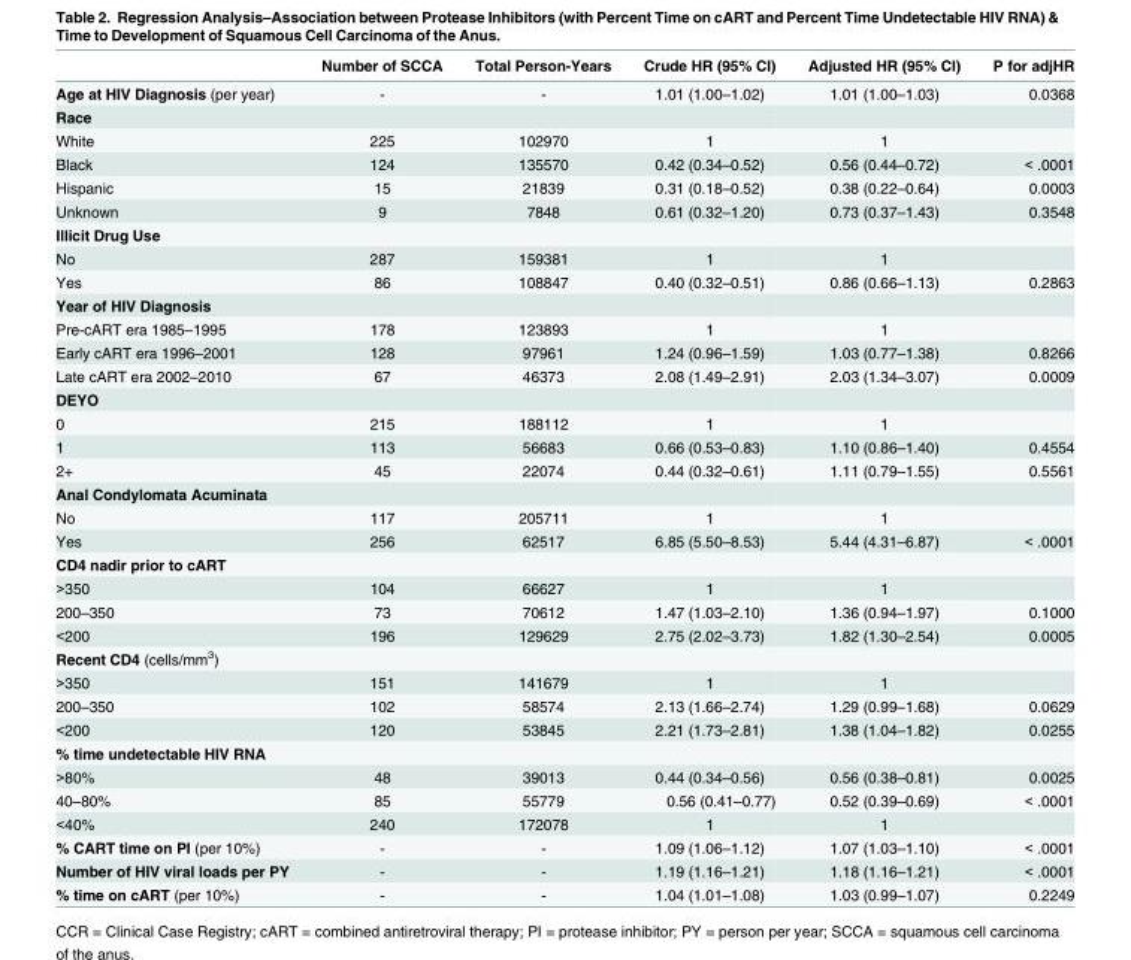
<table><thead><tr><td></td><td>Number of SCCA</td><td>Total Person-Years</td><td>Crude HR (95% CI)</td><td>Adjusted HR (95% CI)</td><td>P for adjHR</td></tr></thead><tbody><tr><td>Age at HIV Diagnosis (per year)</td><td>-</td><td>-</td><td>1.01 (1.00–1.02)</td><td>1.01 (1.00–1.03)</td><td>0.0368</td></tr><tr><td colspan="6">Race</td></tr><tr><td>White</td><td>225</td><td>102970</td><td>1</td><td>1</td><td></td></tr><tr><td>Black</td><td>124</td><td>135570</td><td>0.42 (0.34–0.52)</td><td>0.56 (0.44–0.72)</td><td>&lt; .0001</td></tr><tr><td>Hispanic</td><td>15</td><td>21839</td><td>0.31 (0.18–0.52)</td><td>0.38 (0.22–0.64)</td><td>0.0003</td></tr><tr><td>Unknown</td><td>9</td><td>7848</td><td>0.61 (0.32–1.20)</td><td>0.73 (0.37–1.43)</td><td>0.3548</td></tr><tr><td colspan="6">Illicit Drug Use</td></tr><tr><td>No</td><td>287</td><td>159381</td><td>1</td><td>1</td><td></td></tr><tr><td>Yes</td><td>86</td><td>108847</td><td>0.40 (0.32–0.51)</td><td>0.86 (0.66–1.13)</td><td>0.2863</td></tr><tr><td colspan="6">Year of HIV Diagnosis</td></tr><tr><td>Pre-cART era 1985–1995</td><td>178</td><td>123893</td><td>1</td><td>1</td><td></td></tr><tr><td>Early cART era 1996–2001</td><td>128</td><td>97961</td><td>1.24 (0.96–1.59)</td><td>1.03 (0.77–1.38)</td><td>0.8266</td></tr><tr><td>Late cART era 2002–2010</td><td>67</td><td>46373</td><td>2.08 (1.49–2.91)</td><td>2.03 (1.34–3.07)</td><td>0.0009</td></tr><tr><td colspan="6">DEYO</td></tr><tr><td>0</td><td>215</td><td>188112</td><td>1</td><td>1</td><td></td></tr><tr><td>1</td><td>113</td><td>56683</td><td>0.66 (0.53–0.83)</td><td>1.10 (0.86–1.40)</td><td>0.4554</td></tr><tr><td>2+</td><td>45</td><td>22074</td><td>0.44 (0.32–0.61)</td><td>1.11 (0.79–1.55)</td><td>0.5561</td></tr><tr><td colspan="6">Anal Condylomata Acuminata</td></tr><tr><td>No</td><td>117</td><td>205711</td><td>1</td><td>1</td><td></td></tr><tr><td>Yes</td><td>256</td><td>62517</td><td>6.85 (5.50–8.53)</td><td>5.44 (4.31–6.87)</td><td>&lt; .0001</td></tr><tr><td colspan="6">CD4 nadir prior to cART</td></tr><tr><td>&gt;350</td><td>104</td><td>66627</td><td>1</td><td>1</td><td></td></tr><tr><td>200–350</td><td>73</td><td>70612</td><td>1.47 (1.03–2.10)</td><td>1.36 (0.94–1.97)</td><td>0.1000</td></tr><tr><td>&lt;200</td><td>196</td><td>129629</td><td>2.75 (2.02–3.73)</td><td>1.82 (1.30–2.54)</td><td>0.0005</td></tr><tr><td colspan="6">Recent CD4 (cells/mm<sup>3</sup>)</td></tr><tr><td>&gt;350</td><td>151</td><td>141679</td><td>1</td><td>1</td><td></td></tr><tr><td>200–350</td><td>102</td><td>58574</td><td>2.13 (1.66–2.74)</td><td>1.29 (0.99–1.68)</td><td>0.0629</td></tr><tr><td>&lt;200</td><td>120</td><td>53845</td><td>2.21 (1.73–2.81)</td><td>1.38 (1.04–1.82)</td><td>0.0255</td></tr><tr><td colspan="6">% time undetectable HIV RNA</td></tr><tr><td>&gt;80%</td><td>48</td><td>39013</td><td>0.44 (0.34–0.56)</td><td>0.56 (0.38–0.81)</td><td>0.0025</td></tr><tr><td>40–80%</td><td>85</td><td>55779</td><td>0.56 (0.41–0.77)</td><td>0.52 (0.39–0.69)</td><td>&lt; .0001</td></tr><tr><td>&lt;40%</td><td>240</td><td>172078</td><td>1</td><td>1</td><td></td></tr><tr><td>% CART time on PI (per 10%)</td><td>-</td><td>-</td><td>1.09 (1.06–1.12)</td><td>1.07 (1.03–1.10)</td><td>&lt; .0001</td></tr><tr><td>Number of HIV viral loads per PY</td><td>-</td><td>-</td><td>1.19 (1.16–1.21)</td><td>1.18 (1.16–1.21)</td><td>&lt; .0001</td></tr><tr><td>% time on cART (per 10%)</td><td>-</td><td>-</td><td>1.04 (1.01–1.08)</td><td>1.03 (0.99–1.07)</td><td>0.2249</td></tr></tbody></table>